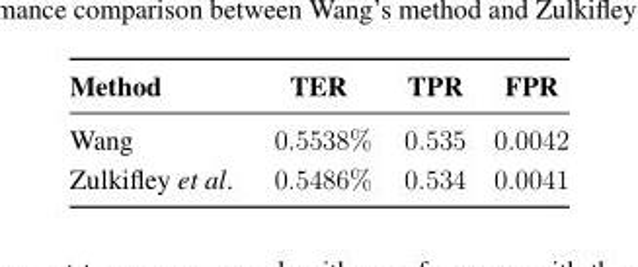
<table><thead><tr><td>Method</td><td>TER</td><td>TPR</td><td>FPR</td></tr></thead><tbody><tr><td>Wang</td><td>0.5538%</td><td>0.535</td><td>0.0042</td></tr><tr><td>Zulkifley et al.</td><td>0.5486%</td><td>0.534</td><td>0.0041</td></tr></tbody></table>